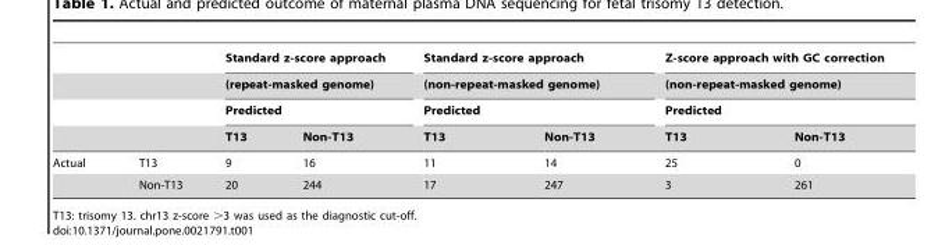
<table><thead><tr><td rowspan="4"></td><td rowspan="4"></td><td rowspan="3" colspan="2">Standard z-score approach (repeat-masked genome) Predicted</td><td rowspan="3" colspan="2">Standard z-score approach (non-repeat-masked genome) Predicted</td><td rowspan="3" colspan="2">Z-score approach with GC correction (non-repeat-masked genome) Predicted</td></tr><tr></tr><tr></tr><tr><td>T13</td><td>Non-T13</td><td>T13</td><td>Non-T13</td><td>T13</td><td>Non-T13</td></tr></thead><tbody><tr><td rowspan="2">Actual</td><td>T13</td><td>9</td><td>16</td><td>11</td><td>14</td><td>25</td><td>0</td></tr><tr><td>Non-T13</td><td>20</td><td>244</td><td>17</td><td>247</td><td>3</td><td>261</td></tr></tbody></table>